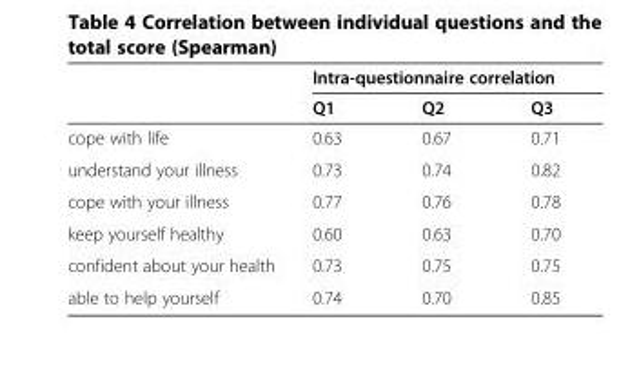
<table><thead><tr><td rowspan="2"></td><td colspan="3">Intra-questionnaire correlation</td></tr><tr><td>Q1</td><td>Q2</td><td>Q3</td></tr></thead><tbody><tr><td>cope with life</td><td>0.63</td><td>0.67</td><td>0.71</td></tr><tr><td>understand your illness</td><td>0.73</td><td>0.74</td><td>0.82</td></tr><tr><td>cope with your illness</td><td>0.77</td><td>0.76</td><td>0.78</td></tr><tr><td>keep yourself healthy</td><td>0.60</td><td>0.63</td><td>0.70</td></tr><tr><td>confident about your health</td><td>0.73</td><td>0.75</td><td>0.75</td></tr><tr><td>able to help yourself</td><td>0.74</td><td>0.70</td><td>0.85</td></tr></tbody></table>